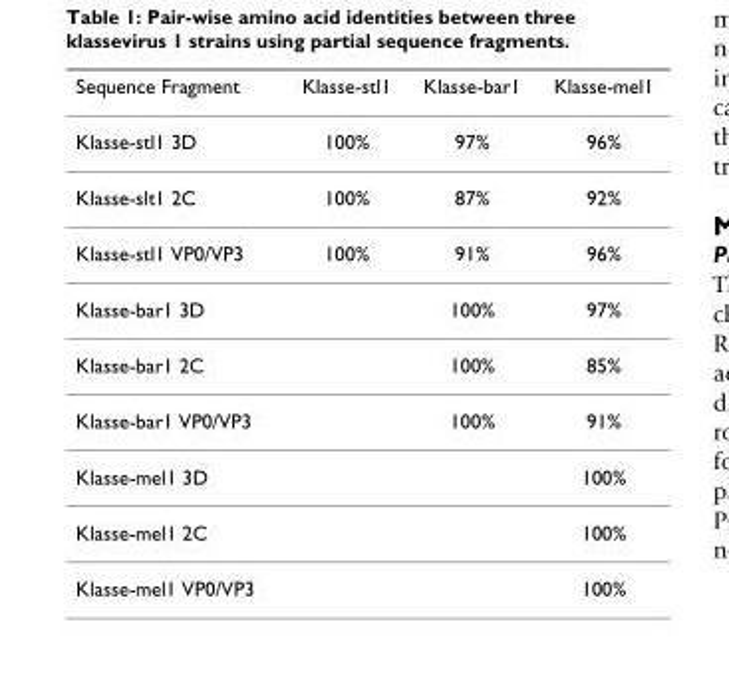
<table><thead><tr><td>Sequence Fragment</td><td>Klasse-stl1</td><td>Klasse-bar1</td><td>Klasse-mel1</td></tr></thead><tbody><tr><td>Klasse-stl1 3D</td><td>100%</td><td>97%</td><td>96%</td></tr><tr><td>Klasse-slt1 2C</td><td>100%</td><td>87%</td><td>92%</td></tr><tr><td>Klasse-stl1 VP0/VP3</td><td>100%</td><td>91%</td><td>96%</td></tr><tr><td>Klasse-bar1 3D</td><td></td><td>100%</td><td>97%</td></tr><tr><td>Klasse-bar1 2C</td><td></td><td>100%</td><td>85%</td></tr><tr><td>Klasse-bar1 VP0/VP3</td><td></td><td>100%</td><td>91%</td></tr><tr><td>Klasse-mel1 3D</td><td></td><td></td><td>100%</td></tr><tr><td>Klasse-mel1 2C</td><td></td><td></td><td>100%</td></tr><tr><td>Klasse-mel1 VP0/VP3</td><td></td><td></td><td>100%</td></tr></tbody></table>